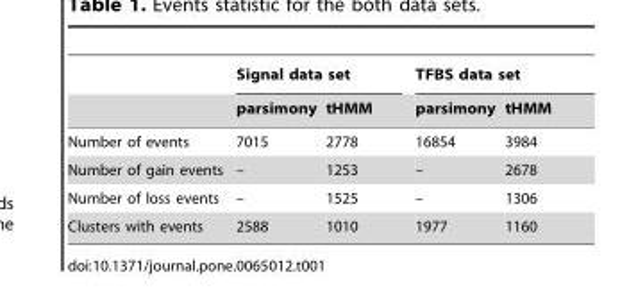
<table><thead><tr><td rowspan="2"></td><td colspan="2">Signal data set</td><td colspan="2">TFBS data set</td></tr><tr><td>parsimony</td><td>tHMM</td><td>parsimony</td><td>tHMM</td></tr></thead><tbody><tr><td>Number of events</td><td>7015</td><td>2778</td><td>16854</td><td>3984</td></tr><tr><td>Number of gain events</td><td>–</td><td>1253</td><td>–</td><td>2678</td></tr><tr><td>Number of loss events</td><td>–</td><td>1525</td><td>–</td><td>1306</td></tr><tr><td>Clusters with events</td><td>2588</td><td>1010</td><td>1977</td><td>1160</td></tr></tbody></table>